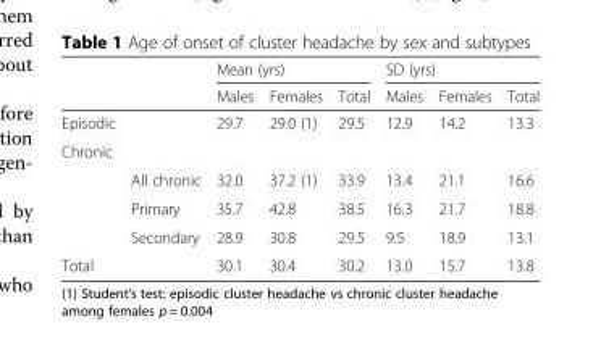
<table><thead><tr><td rowspan="2"></td><td rowspan="2"></td><td colspan="3">Mean (yrs)</td><td colspan="3">SD (yrs)</td></tr><tr><td>Males</td><td>Females</td><td>Total</td><td>Males</td><td>Females</td><td>Total</td></tr></thead><tbody><tr><td>Episodic</td><td></td><td>29.7</td><td>29.0 (1)</td><td>29.5</td><td>12.9</td><td>14.2</td><td>13.3</td></tr><tr><td colspan="8">Chronic</td></tr><tr><td></td><td>All chronic</td><td>32.0</td><td>37.2 (1)</td><td>33.9</td><td>13.4</td><td>21.1</td><td>16.6</td></tr><tr><td></td><td>Primary</td><td>35.7</td><td>42.8</td><td>38.5</td><td>16.3</td><td>21.7</td><td>18.8</td></tr><tr><td></td><td>Secondary</td><td>28.9</td><td>30.8</td><td>29.5</td><td>9.5</td><td>18.9</td><td>13.1</td></tr><tr><td>Total</td><td></td><td>30.1</td><td>30.4</td><td>30.2</td><td>13.0</td><td>15.7</td><td>13.8</td></tr></tbody></table>